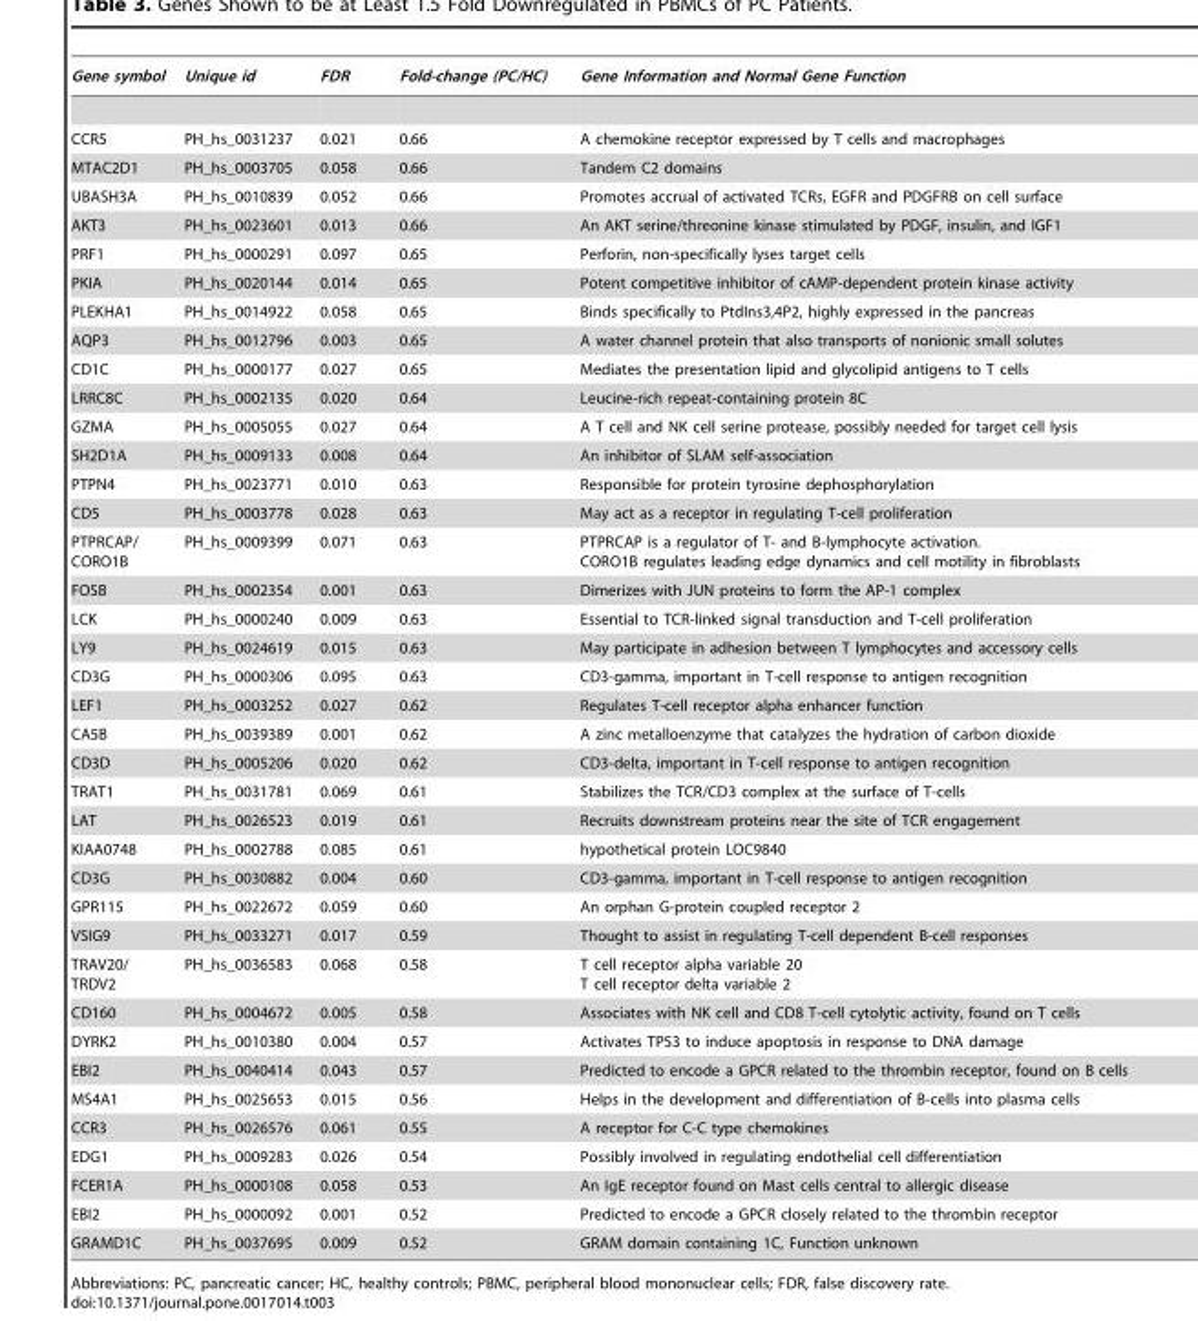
<table><thead><tr><td>Gene symbol</td><td>Unique id</td><td>FDR</td><td>Fold-change (PC/HC)</td><td>Gene Information and Normal Gene Function</td></tr></thead><tbody><tr><td>CCR5</td><td>PH_hs_0031237</td><td>0.021</td><td>0.66</td><td>A chemokine receptor expressed by T cells and macrophages</td></tr><tr><td>MTAC2D1</td><td>PH_hs_0003705</td><td>0.058</td><td>0.66</td><td>Tandem C2 domains</td></tr><tr><td>UBASH3A</td><td>PH_hs_0010839</td><td>0.052</td><td>0.66</td><td>Promotes accrual of activated TCRs, EGFR and PDGFRB on cell surface</td></tr><tr><td>AKT3</td><td>PH_hs_0023601</td><td>0.013</td><td>0.66</td><td>An AKT serine/threonine kinase stimulated by PDGF, insulin, and IGF1</td></tr><tr><td>PRF1</td><td>PH_hs_0000291</td><td>0.097</td><td>0.65</td><td>Perforin, non-specifically lyses target cells</td></tr><tr><td>PKIA</td><td>PH_hs_0020144</td><td>0.014</td><td>0.65</td><td>Potent competitive inhibitor of cAMP-dependent protein kinase activity</td></tr><tr><td>PLEKHA1</td><td>PH_hs_0014922</td><td>0.058</td><td>0.65</td><td>Binds specifically to PtdIns3,4P2, highly expressed in the pancreas</td></tr><tr><td>AQP3</td><td>PH_hs_0012796</td><td>0.003</td><td>0.65</td><td>A water channel protein that also transports of nonionic small solutes</td></tr><tr><td>CD1C</td><td>PH_hs_0000177</td><td>0.027</td><td>0.65</td><td>Mediates the presentation lipid and glycolipid antigens to T cells</td></tr><tr><td>LRRC8C</td><td>PH_hs_0002135</td><td>0.020</td><td>0.64</td><td>Leucine-rich repeat-containing protein 8C</td></tr><tr><td>GZMA</td><td>PH_hs_0005055</td><td>0.027</td><td>0.64</td><td>A T cell and NK cell serine protease, possibly needed for target cell lysis</td></tr><tr><td>SH2D1A</td><td>PH_hs_0009133</td><td>0.008</td><td>0.64</td><td>An inhibitor of SLAM self-association</td></tr><tr><td>PTPN4</td><td>PH_hs_0023771</td><td>0.010</td><td>0.63</td><td>Responsible for protein tyrosine dephosphorylation</td></tr><tr><td>CD5</td><td>PH_hs_0003778</td><td>0.028</td><td>0.63</td><td>May act as a receptor in regulating T-cell proliferation</td></tr><tr><td>PTPRCAP/ CORO1B</td><td>PH_hs_0009399</td><td>0.071</td><td>0.63</td><td>PTPRCAP is a regulator of T- and B-lymphocyte activation. CORO1B regulates leading edge dynamics and cell motility in fibroblasts</td></tr><tr><td>FOSB</td><td>PH_hs_0002354</td><td>0.001</td><td>0.63</td><td>Dimerizes with JUN proteins to form the AP-1 complex</td></tr><tr><td>LCK</td><td>PH_hs_0000240</td><td>0.009</td><td>0.63</td><td>Essential to TCR-linked signal transduction and T-cell proliferation</td></tr><tr><td>LY9</td><td>PH_hs_0024619</td><td>0.015</td><td>0.63</td><td>May participate in adhesion between T lymphocytes and accessory cells</td></tr><tr><td>CD3G</td><td>PH_hs_0000306</td><td>0.095</td><td>0.63</td><td>CD3-gamma, important in T-cell response to antigen recognition</td></tr><tr><td>LEF1</td><td>PH_hs_0003252</td><td>0.027</td><td>0.62</td><td>Regulates T-cell receptor alpha enhancer function</td></tr><tr><td>CA5B</td><td>PH_hs_0039389</td><td>0.001</td><td>0.62</td><td>A zinc metalloenzyme that catalyzes the hydration of carbon dioxide</td></tr><tr><td>CD3D</td><td>PH_hs_0005206</td><td>0.020</td><td>0.62</td><td>CD3-delta, important in T-cell response to antigen recognition</td></tr><tr><td>TRAT1</td><td>PH_hs_0031781</td><td>0.069</td><td>0.61</td><td>Stabilizes the TCR/CD3 complex at the surface of T-cells</td></tr><tr><td>LAT</td><td>PH_hs_0026523</td><td>0.019</td><td>0.61</td><td>Recruits downstream proteins near the site of TCR engagement</td></tr><tr><td>KIAA0748</td><td>PH_hs_0002788</td><td>0.085</td><td>0.61</td><td>hypothetical protein LOC9840</td></tr><tr><td>CD3G</td><td>PH_hs_0030882</td><td>0.004</td><td>0.60</td><td>CD3-gamma, important in T-cell response to antigen recognition</td></tr><tr><td>GPR115</td><td>PH_hs_0022672</td><td>0.059</td><td>0.60</td><td>An orphan G-protein coupled receptor 2</td></tr><tr><td>VSIG9</td><td>PH_hs_0033271</td><td>0.017</td><td>0.59</td><td>Thought to assist in regulating T-cell dependent B-cell responses</td></tr><tr><td>TRAV20/ TRDV2</td><td>PH_hs_0036583</td><td>0.068</td><td>0.58</td><td>T cell receptor alpha variable 20 T cell receptor delta variable 2</td></tr><tr><td>CD160</td><td>PH_hs_0004672</td><td>0.005</td><td>0.58</td><td>Associates with NK cell and CD8 T-cell cytolytic activity, found on T cells</td></tr><tr><td>DYRK2</td><td>PH_hs_0010380</td><td>0.004</td><td>0.57</td><td>Activates TP53 to induce apoptosis in response to DNA damage</td></tr><tr><td>EBI2</td><td>PH_hs_0040414</td><td>0.043</td><td>0.57</td><td>Predicted to encode a GPCR related to the thrombin receptor, found on B cells</td></tr><tr><td>MS4A1</td><td>PH_hs_0025653</td><td>0.015</td><td>0.56</td><td>Helps in the development and differentiation of B-cells into plasma cells</td></tr><tr><td>CCR3</td><td>PH_hs_0026576</td><td>0.061</td><td>0.55</td><td>A receptor for C-C type chemokines</td></tr><tr><td>EDG1</td><td>PH_hs_0009283</td><td>0.026</td><td>0.54</td><td>Possibly involved in regulating endothelial cell differentiation</td></tr><tr><td>FCER1A</td><td>PH_hs_0000108</td><td>0.058</td><td>0.53</td><td>An IgE receptor found on Mast cells central to allergic disease</td></tr><tr><td>EBI2</td><td>PH_hs_0000092</td><td>0.001</td><td>0.52</td><td>Predicted to encode a GPCR closely related to the thrombin receptor</td></tr><tr><td>GRAMD1C</td><td>PH_hs_0037695</td><td>0.009</td><td>0.52</td><td>GRAM domain containing 1C, Function unknown</td></tr></tbody></table>